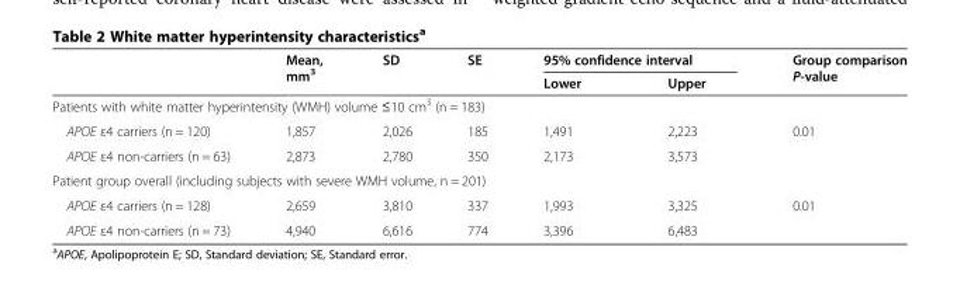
<table><thead><tr><td rowspan="2"></td><td rowspan="2">Mean, mm<sup>3</sup></td><td rowspan="2">SD</td><td rowspan="2">SE</td><td colspan="2">95% confidence interval</td><td rowspan="2">Group comparison P-value</td></tr><tr><td>Lower</td><td>Upper</td></tr></thead><tbody><tr><td colspan="7">Patients with white matter hyperintensity (WMH) volume ≤10 cm<sup>3</sup> (n = 183)</td></tr><tr><td>APOE ε4 carriers (n = 120)</td><td>1,857</td><td>2,026</td><td>185</td><td>1,491</td><td>2,223</td><td rowspan="2">0.01</td></tr><tr><td>APOE ε4 non-carriers (n = 63)</td><td>2,873</td><td>2,780</td><td>350</td><td>2,173</td><td>3,573</td></tr><tr><td colspan="7">Patient group overall (including subjects with severe WMH volume, n = 201)</td></tr><tr><td>APOE ε4 carriers (n = 128)</td><td>2,659</td><td>3,810</td><td>337</td><td>1,993</td><td>3,325</td><td rowspan="2">0.01</td></tr><tr><td>APOE ε4 non-carriers (n = 73)</td><td>4,940</td><td>6,616</td><td>774</td><td>3,396</td><td>6,483</td></tr></tbody></table>